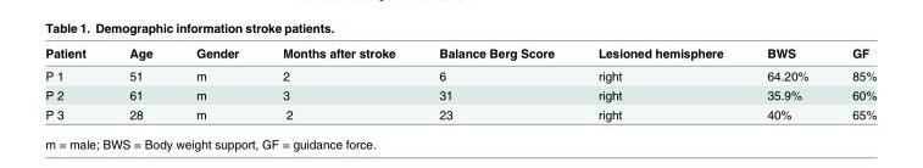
<table><thead><tr><td>Patient</td><td>Age</td><td>Gender</td><td>Months after stroke</td><td>Balance Berg Score</td><td>Lesioned hemisphere</td><td>BWS</td><td>GF</td></tr></thead><tbody><tr><td>P 1</td><td>51</td><td>m</td><td>2</td><td>6</td><td>right</td><td>64.20%</td><td>85%</td></tr><tr><td>P 2</td><td>61</td><td>m</td><td>3</td><td>31</td><td>right</td><td>35.9%</td><td>60%</td></tr><tr><td>P 3</td><td>28</td><td>m</td><td>2</td><td>23</td><td>right</td><td>40%</td><td>65%</td></tr></tbody></table>